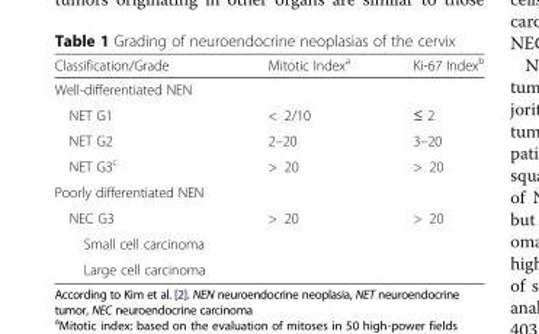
<table><thead><tr><td>Classification/Grade</td><td>Mitotic Index<sup>a</sup></td><td>Ki-67 Index<sup>b</sup></td></tr></thead><tbody><tr><td colspan="3">Well-differentiated NEN</td></tr><tr><td>NET G1</td><td>&lt; 2/10</td><td>≤ 2</td></tr><tr><td>NET G2</td><td>2–20</td><td>3–20</td></tr><tr><td>NET G3<sup>c</sup></td><td>&gt; 20</td><td>&gt; 20</td></tr><tr><td colspan="3">Poorly differentiated NEN</td></tr><tr><td>NEC G3</td><td>&gt; 20</td><td>&gt; 20</td></tr><tr><td colspan="3">Small cell carcinoma</td></tr><tr><td>Large cell carcinoma</td><td></td><td></td></tr></tbody></table>